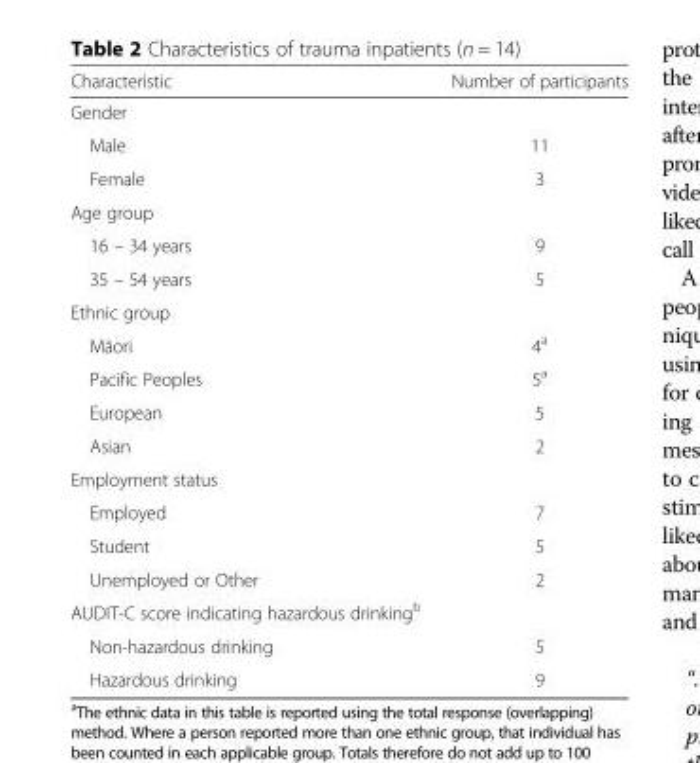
<table><thead><tr><td>Characteristic</td><td>Number of participants</td></tr></thead><tbody><tr><td colspan="2">Gender</td></tr><tr><td>Male</td><td>11</td></tr><tr><td>Female</td><td>3</td></tr><tr><td colspan="2">Age group</td></tr><tr><td>16 – 34 years</td><td>9</td></tr><tr><td>35 – 54 years</td><td>5</td></tr><tr><td colspan="2">Ethnic group</td></tr><tr><td>Māori</td><td>4<sup>a</sup></td></tr><tr><td>Pacific Peoples</td><td>5<sup>a</sup></td></tr><tr><td>European</td><td>5</td></tr><tr><td>Asian</td><td>2</td></tr><tr><td colspan="2">Employment status</td></tr><tr><td>Employed</td><td>7</td></tr><tr><td>Student</td><td>5</td></tr><tr><td>Unemployed or Other</td><td>2</td></tr><tr><td colspan="2">AUDIT-C score indicating hazardous drinking<sup>b</sup></td></tr><tr><td>Non-hazardous drinking</td><td>5</td></tr><tr><td>Hazardous drinking</td><td>9</td></tr></tbody></table>